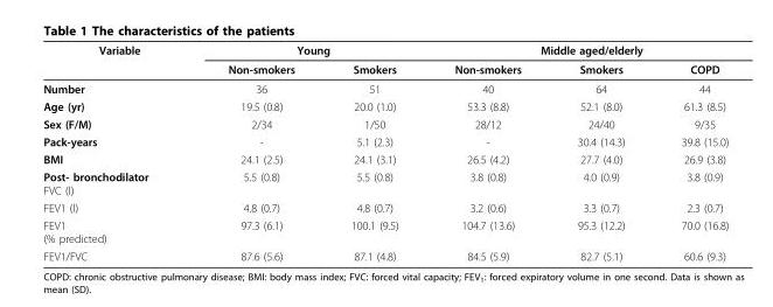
<table><thead><tr><td rowspan="2">Variable</td><td colspan="2">Young</td><td colspan="3">Middle aged/elderly</td></tr><tr><td>Non-smokers</td><td>Smokers</td><td>Non-smokers</td><td>Smokers</td><td>COPD</td></tr></thead><tbody><tr><td>Number</td><td>36</td><td>51</td><td>40</td><td>64</td><td>44</td></tr><tr><td>Age (yr)</td><td>19.5 (0.8)</td><td>20.0 (1.0)</td><td>53.3 (8.8)</td><td>52.1 (8.0)</td><td>61.3 (8.5)</td></tr><tr><td>Sex (F/M)</td><td>2/34</td><td>1/50</td><td>28/12</td><td>24/40</td><td>9/35</td></tr><tr><td>Pack-years</td><td>-</td><td>5.1 (2.3)</td><td>-</td><td>30.4 (14.3)</td><td>39.8 (15.0)</td></tr><tr><td>BMI</td><td>24.1 (2.5)</td><td>24.1 (3.1)</td><td>26.5 (4.2)</td><td>27.7 (4.0)</td><td>26.9 (3.8)</td></tr><tr><td>Post- bronchodilator FVC (l)</td><td>5.5 (0.8)</td><td>5.5 (0.8)</td><td>3.8 (0.8)</td><td>4.0 (0.9)</td><td>3.8 (0.9)</td></tr><tr><td>FEV1 (l)</td><td>4.8 (0.7)</td><td>4.8 (0.7)</td><td>3.2 (0.6)</td><td>3.3 (0.7)</td><td>2.3 (0.7)</td></tr><tr><td>FEV1 (% predicted)</td><td>97.3 (6.1)</td><td>100.1 (9.5)</td><td>104.7 (13.6)</td><td>95.3 (12.2)</td><td>70.0 (16.8)</td></tr><tr><td>FEV1/FVC</td><td>87.6 (5.6)</td><td>87.1 (4.8)</td><td>84.5 (5.9)</td><td>82.7 (5.1)</td><td>60.6 (9.3)</td></tr></tbody></table>